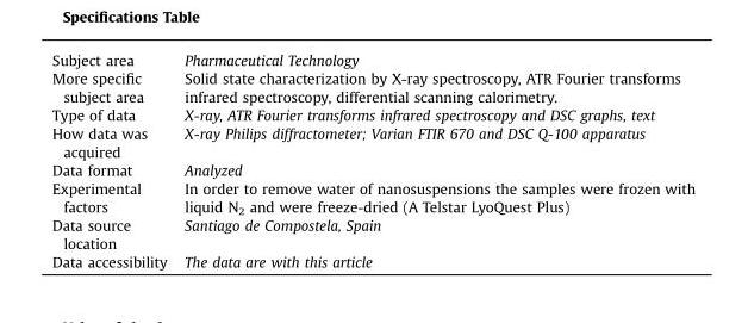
<table><tbody><tr><td>Subject area</td><td>Pharmaceutical Technology</td></tr><tr><td>More specific subject area</td><td>Solid state characterization by X-ray spectroscopy, ATR Fourier transforms infrared spectroscopy, differential scanning calorimetry.</td></tr><tr><td>Type of data</td><td>X-ray, ATR Fourier transforms infrared spectroscopy and DSC graphs, text</td></tr><tr><td>How data was acquired</td><td>X-ray Philips diffractometer; Varian FTIR 670 and DSC Q-100 apparatus</td></tr><tr><td>Data format</td><td>Analyzed</td></tr><tr><td>Experimental factors</td><td>In order to remove water of nanosuspensions the samples were frozen with liquid N<sub>2</sub> and were freeze-dried (A Telstar LyoQuest Plus)</td></tr><tr><td>Data source location</td><td>Santiago de Compostela, Spain</td></tr><tr><td>Data accessibility</td><td>The data are with this article</td></tr></tbody></table>